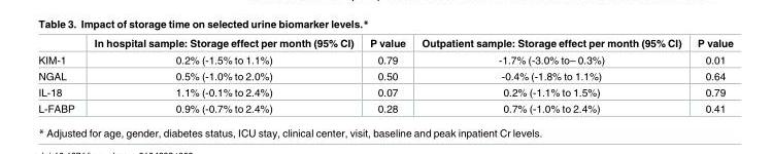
<table><thead><tr><td></td><td>In hospital sample: Storage effect per month (95% CI)</td><td>P value</td><td>Outpatient sample: Storage effect per month (95% CI)</td><td>P value</td></tr></thead><tbody><tr><td>KIM-1</td><td>0.2% (-1.5% to 1.1%)</td><td>0.79</td><td>-1.7% (-3.0% to– 0.3%)</td><td>0.01</td></tr><tr><td>NGAL</td><td>0.5% (-1.0% to 2.0%)</td><td>0.50</td><td>-0.4% (-1.8% to 1.1%)</td><td>0.64</td></tr><tr><td>IL-18</td><td>1.1% (-0.1% to 2.4%)</td><td>0.07</td><td>0.2% (-1.1% to 1.5%)</td><td>0.79</td></tr><tr><td>L-FABP</td><td>0.9% (-0.7% to 2.4%)</td><td>0.28</td><td>0.7% (-1.0% to 2.4%)</td><td>0.41</td></tr></tbody></table>